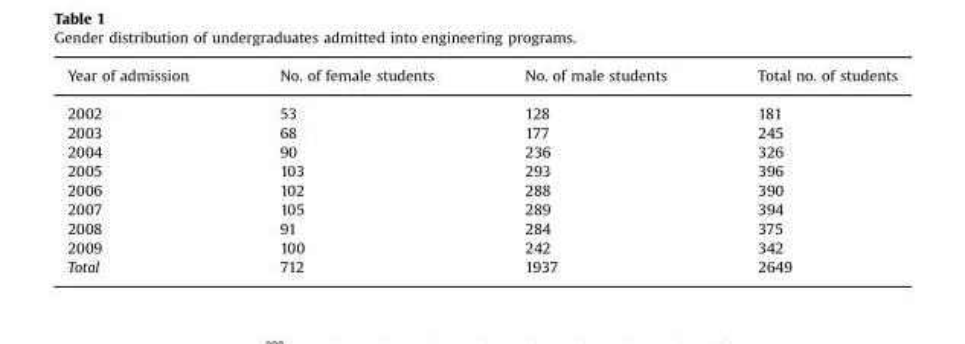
<table><thead><tr><td>Year of admission</td><td>No. of female students</td><td>No. of male students</td><td>Total no. of students</td></tr></thead><tbody><tr><td>2002</td><td>53</td><td>128</td><td>181</td></tr><tr><td>2003</td><td>68</td><td>177</td><td>245</td></tr><tr><td>2004</td><td>90</td><td>236</td><td>326</td></tr><tr><td>2005</td><td>103</td><td>293</td><td>396</td></tr><tr><td>2006</td><td>102</td><td>288</td><td>390</td></tr><tr><td>2007</td><td>105</td><td>289</td><td>394</td></tr><tr><td>2008</td><td>91</td><td>284</td><td>375</td></tr><tr><td>2009</td><td>100</td><td>242</td><td>342</td></tr><tr><td>Total</td><td>712</td><td>1937</td><td>2649</td></tr></tbody></table>